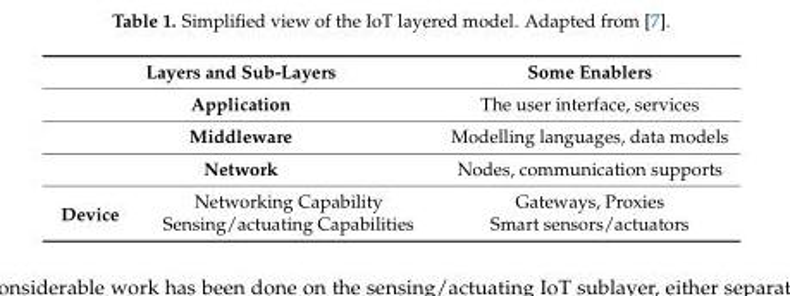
<table><thead><tr><td colspan="2">Layers and Sub-Layers</td><td>Some Enablers</td></tr></thead><tbody><tr><td colspan="2">Application</td><td>The user interface, services</td></tr><tr><td colspan="2">Middleware</td><td>Modelling languages, data models</td></tr><tr><td colspan="2">Network</td><td>Nodes, communication supports</td></tr><tr><td rowspan="2">Device</td><td>Networking Capability</td><td>Gateways, Proxies</td></tr><tr><td>Sensing/actuating Capabilities</td><td>Smart sensors/actuators</td></tr></tbody></table>